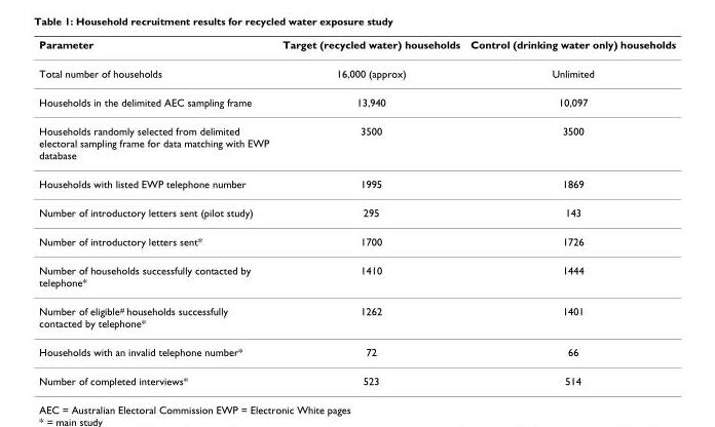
<table><thead><tr><td>Parameter</td><td>Target (recycled water) households</td><td>Control (drinking water only) households</td></tr></thead><tbody><tr><td>Total number of households</td><td>16,000 (approx)</td><td>Unlimited</td></tr><tr><td>Households in the delimited AEC sampling frame</td><td>13,940</td><td>10,097</td></tr><tr><td>Households randomly selected from delimited electoral sampling frame for data matching with EWP database</td><td>3500</td><td>3500</td></tr><tr><td>Households with listed EWP telephone number</td><td>1995</td><td>1869</td></tr><tr><td>Number of introductory letters sent (pilot study)</td><td>295</td><td>143</td></tr><tr><td>Number of introductory letters sent*</td><td>1700</td><td>1726</td></tr><tr><td>Number of households successfully contacted by telephone*</td><td>1410</td><td>1444</td></tr><tr><td>Number of eligible<sup>#</sup> households successfully contacted by telephone*</td><td>1262</td><td>1401</td></tr><tr><td>Households with an invalid telephone number*</td><td>72</td><td>66</td></tr><tr><td>Number of completed interviews*</td><td>523</td><td>514</td></tr></tbody></table>